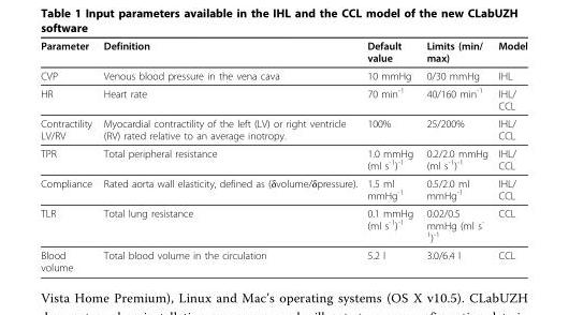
<table><thead><tr><td>Parameter</td><td>Definition</td><td>Default value</td><td>Limits (min/ max)</td><td>Model</td></tr></thead><tbody><tr><td>CVP</td><td>Venous blood pressure in the vena cava</td><td>10 mmHg</td><td>0/30 mmHg</td><td>IHL</td></tr><tr><td>HR</td><td>Heart rate</td><td>70 min<sup>-1</sup></td><td>40/160 min<sup>-1</sup></td><td>IHL/ CCL</td></tr><tr><td>Contractility LV/RV</td><td>Myocardial contractility of the left (LV) or right ventricle (RV) rated relative to an average inotropy.</td><td>100%</td><td>25/200%</td><td>IHL/ CCL</td></tr><tr><td>TPR</td><td>Total peripheral resistance</td><td>1.0 mmHg (ml s<sup>-1</sup>)<sup>-1</sup></td><td>0.2/2.0 mmHg (ml s<sup>-1</sup>)<sup>-1</sup></td><td>IHL/ CCL</td></tr><tr><td>Compliance</td><td>Rated aorta wall elasticity, defined as (δvolume/δpressure).</td><td>1.5 ml mmHg<sup>-1</sup></td><td>0.5/2.0 ml mmHg<sup>-1</sup></td><td>IHL/ CCL</td></tr><tr><td>TLR</td><td>Total lung resistance</td><td>0.1 mmHg (ml s<sup>-1</sup>)<sup>-1</sup></td><td>0.02/0.5 mmHg (ml s<sup>- 1</sup>)<sup>-1</sup></td><td>CCL</td></tr><tr><td>Blood volume</td><td>Total blood volume in the circulation</td><td>5.2 l</td><td>3.0/6.4 l</td><td>CCL</td></tr></tbody></table>